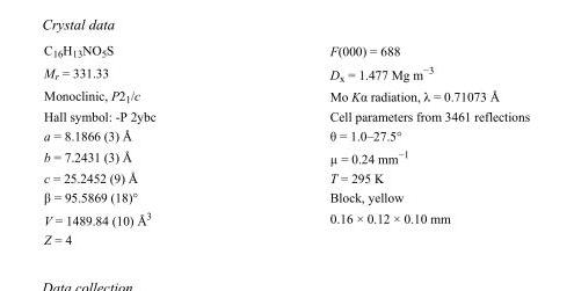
<table><tbody><tr><td>C<sub>16</sub>H<sub>13</sub>NO<sub>5</sub>S</td><td>F(000) = 688</td></tr><tr><td>M<sub>r</sub> = 331.33</td><td>D<sub>x</sub> = 1.477 Mg m<sup>−3</sup></td></tr><tr><td>Monoclinic, P2<sub>1</sub>/c</td><td>Mo Kα radiation, λ = 0.71073 Å</td></tr><tr><td>Hall symbol: -P 2ybc</td><td>Cell parameters from 3461 reflections</td></tr><tr><td>a = 8.1866 (3) Å</td><td>θ = 1.0–27.5°</td></tr><tr><td>b = 7.2431 (3) Å</td><td>µ = 0.24 mm<sup>−1</sup></td></tr><tr><td>c = 25.2452 (9) Å</td><td>T = 295 K</td></tr><tr><td>β = 95.5869 (18)°</td><td>Block, yellow</td></tr><tr><td>V = 1489.84 (10) Å<sup>3</sup></td><td>0.16 × 0.12 × 0.10 mm</td></tr><tr><td>Z = 4</td><td></td></tr></tbody></table>